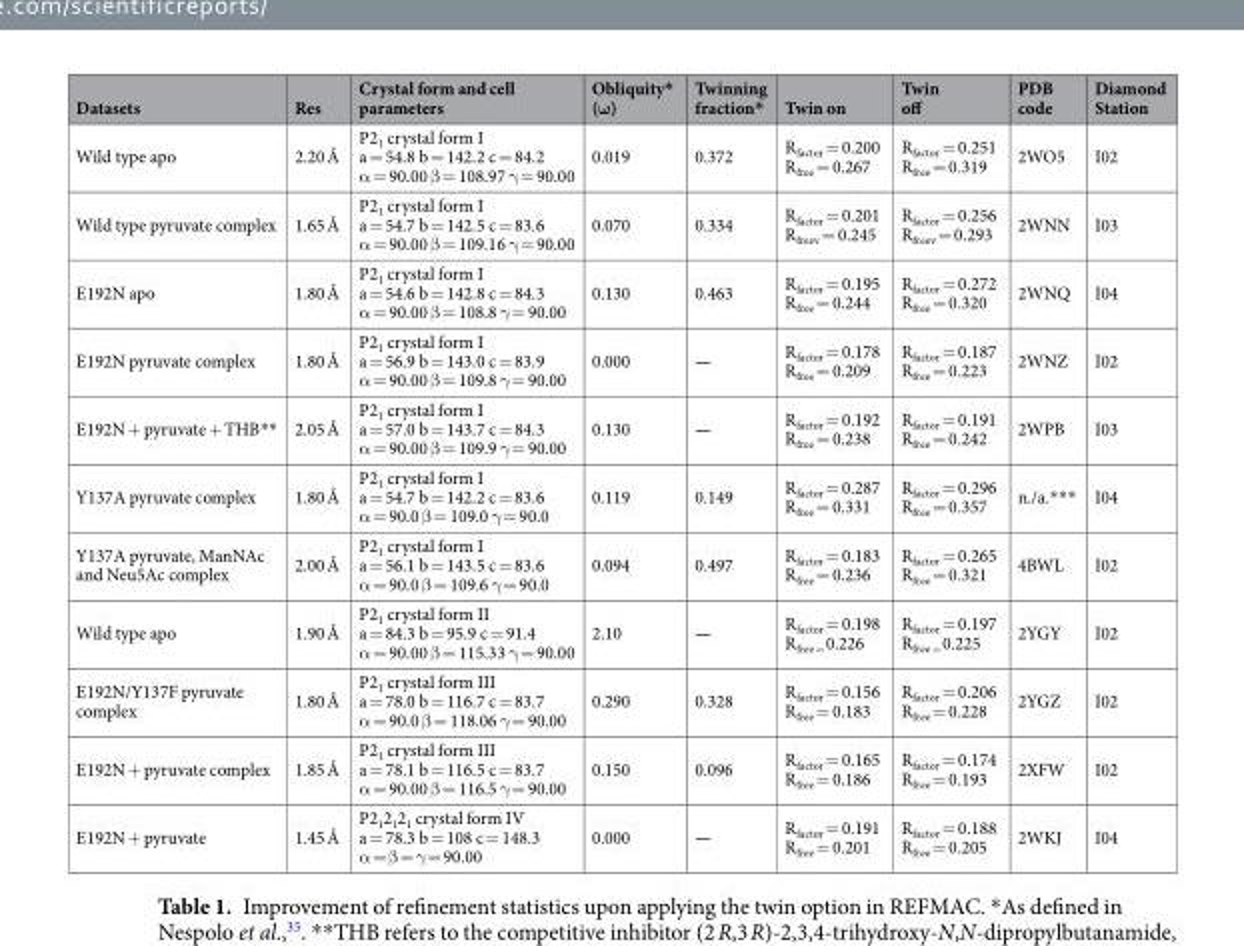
<table><thead><tr><td>Datasets</td><td>Res</td><td>Crystal form and cell parameters</td><td>Obliquity* (ω)</td><td>Twinning fraction*</td><td>Twin on</td><td>Twin off</td><td>PDB code</td><td>Diamond Station</td></tr></thead><tbody><tr><td>Wild type apo</td><td>2.20 Å</td><td>P2<sub>1</sub> crystal form I a = 54.8 b = 142.2 c = 84.2 α = 90.00 β = 108.97 γ = 90.00</td><td>0.019</td><td>0.372</td><td>R<sub>factor</sub> = 0.200 R<sub>free</sub> = 0.267</td><td>R<sub>factor</sub> = 0.251 R<sub>free</sub> = 0.319</td><td>2WO5</td><td>I02</td></tr><tr><td>Wild type pyruvate complex</td><td>1.65 Å</td><td>P2<sub>1</sub> crystal form I a = 54.7 b = 142.5 c = 83.6 α = 90.00 β = 109.16 γ = 90.00</td><td>0.070</td><td>0.334</td><td>R<sub>factor</sub> = 0.201 R<sub>freev</sub> = 0.245</td><td>R<sub>factor</sub> = 0.256 R<sub>freev</sub> = 0.293</td><td>2WNN</td><td>I03</td></tr><tr><td>E192N apo</td><td>1.80 Å</td><td>P2<sub>1</sub> crystal form I a = 54.6 b = 142.8 c = 84.3 α = 90.00 β = 108.8 γ = 90.00</td><td>0.130</td><td>0.463</td><td>R<sub>factor</sub> = 0.195 R<sub>free</sub> = 0.244</td><td>R<sub>factor</sub> = 0.272 R<sub>free</sub> = 0.320</td><td>2WNQ</td><td>I04</td></tr><tr><td>E192N pyruvate complex</td><td>1.80 Å</td><td>P2<sub>1</sub> crystal form I a = 56.9 b = 143.0 c = 83.9 α = 90.00 β = 109.8 γ = 90.00</td><td>0.000</td><td>—</td><td>R<sub>factor</sub> = 0.178 R<sub>free</sub> = 0.209</td><td>R<sub>factor</sub> = 0.187 R<sub>free</sub> = 0.223</td><td>2WNZ</td><td>I02</td></tr><tr><td>E192N + pyruvate + THB**</td><td>2.05 Å</td><td>P2<sub>1</sub> crystal form I a = 57.0 b = 143.7 c = 84.3 α = 90.00 β = 109.9 γ = 90.00</td><td>0.130</td><td>—</td><td>R<sub>factor</sub> = 0.192 R<sub>free</sub> = 0.238</td><td>R<sub>factor</sub> = 0.191 R<sub>free</sub> = 0.242</td><td>2WPB</td><td>I03</td></tr><tr><td>Y137A pyruvate complex</td><td>1.80 Å</td><td>P2<sub>1</sub> crystal form I a = 54.7 b = 142.2 c = 83.6 α = 90.0 β = 109.0 γ = 90.0</td><td>0.119</td><td>0.149</td><td>R<sub>factor</sub> = 0.287 R<sub>free</sub> = 0.331</td><td>R<sub>factor</sub> = 0.296 R<sub>free</sub> = 0.357</td><td>n./a.***</td><td>I04</td></tr><tr><td>Y137A pyruvate, ManNAc and Neu5Ac complex</td><td>2.00 Å</td><td>P2<sub>1</sub> crystal form I a = 56.1 b = 143.5 c = 83.6 α = 90.0 β = 109.6 γ = 90.0</td><td>0.094</td><td>0.497</td><td>R<sub>factor</sub> = 0.183 R<sub>free</sub> = 0.236</td><td>R<sub>factor</sub> = 0.265 R<sub>free</sub> = 0.321</td><td>4BWL</td><td>I02</td></tr><tr><td>Wild type apo</td><td>1.90 Å</td><td>P2<sub>1</sub> crystal form II a = 84.3 b = 95.9 c = 91.4 α = 90.00 β = 115.33 γ = 90.00</td><td>2.10</td><td>—</td><td>R<sub>factor</sub> = 0.198 R<sub>free =</sub> 0.226</td><td>R<sub>factor</sub> = 0.197 R<sub>free =</sub> 0.225</td><td>2YGY</td><td>I02</td></tr><tr><td>E192N/Y137F pyruvate complex</td><td>1.80 Å</td><td>P2<sub>1</sub> crystal form III a = 78.0 b = 116.7 c = 83.7 α = 90.0 β = 118.06 γ = 90.00</td><td>0.290</td><td>0.328</td><td>R<sub>factor</sub> = 0.156 R<sub>free</sub> = 0.183</td><td>R<sub>factor</sub> = 0.206 R<sub>free</sub> = 0.228</td><td>2YGZ</td><td>I02</td></tr><tr><td>E192N + pyruvate complex</td><td>1.85 Å</td><td>P2<sub>1</sub> crystal form III a = 78.1 b = 116.5 c = 83.7 α = 90.00 β = 116.5 γ = 90.00</td><td>0.150</td><td>0.096</td><td>R<sub>factor</sub> = 0.165 R<sub>free</sub> = 0.186</td><td>R<sub>factor</sub> = 0.174 R<sub>free</sub> = 0.193</td><td>2XFW</td><td>I02</td></tr><tr><td>E192N + pyruvate</td><td>1.45 Å</td><td>P2<sub>1</sub>2<sub>1</sub>2<sub>1</sub> crystal form IV a = 78.3 b = 108 c = 148.3 α = β = γ = 90.00</td><td>0.000</td><td>—</td><td>R<sub>factor</sub> = 0.191 R<sub>free</sub> = 0.201</td><td>R<sub>factor</sub> = 0.188 R<sub>free</sub> = 0.205</td><td>2WKJ</td><td>I04</td></tr></tbody></table>